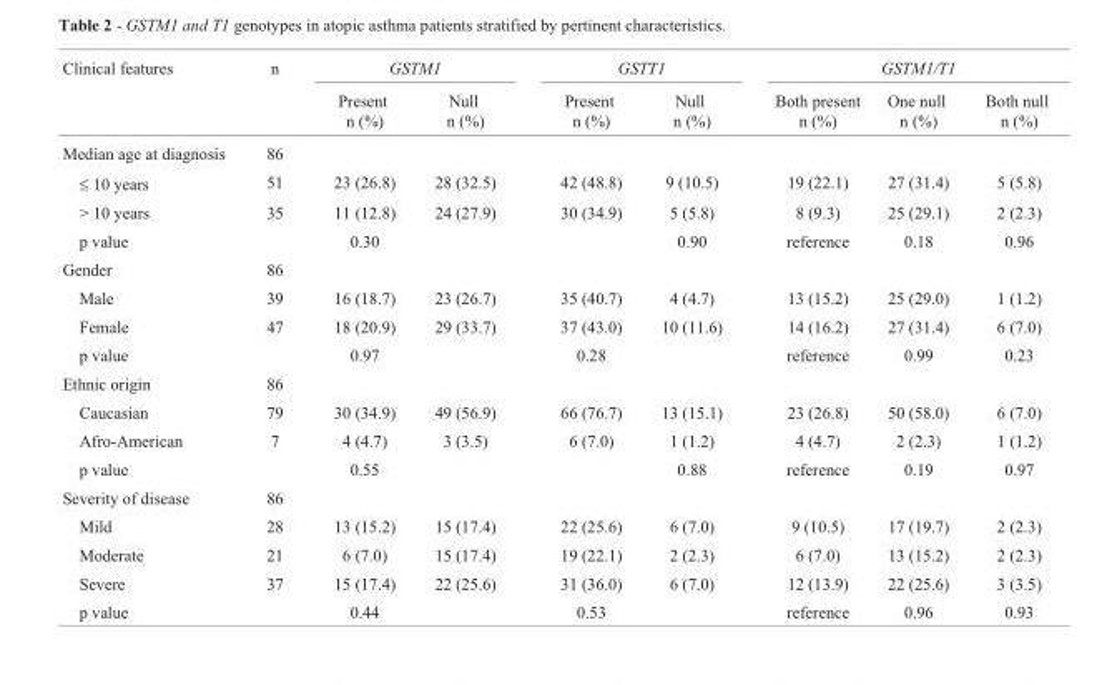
<table><thead><tr><td rowspan="2">Clinical features</td><td rowspan="2">n</td><td colspan="2">GSTM1</td><td colspan="2">GSTT1</td><td colspan="3">GSTM1/T1</td></tr><tr><td>Present n (%)</td><td>Null n (%)</td><td>Present n (%)</td><td>Null n (%)</td><td>Both present n (%)</td><td>One null n (%)</td><td>Both null n (%)</td></tr></thead><tbody><tr><td>Median age at diagnosis</td><td>86</td><td></td><td></td><td></td><td></td><td></td><td></td><td></td></tr><tr><td>≤ 10 years</td><td>51</td><td>23 (26.8)</td><td>28 (32.5)</td><td>42 (48.8)</td><td>9 (10.5)</td><td>19 (22.1)</td><td>27 (31.4)</td><td>5 (5.8)</td></tr><tr><td>&gt; 10 years</td><td>35</td><td>11 (12.8)</td><td>24 (27.9)</td><td>30 (34.9)</td><td>5 (5.8)</td><td>8 (9.3)</td><td>25 (29.1)</td><td>2 (2.3)</td></tr><tr><td>p value</td><td></td><td>0.30</td><td></td><td></td><td>0.90</td><td>reference</td><td>0.18</td><td>0.96</td></tr><tr><td>Gender</td><td>86</td><td></td><td></td><td></td><td></td><td></td><td></td><td></td></tr><tr><td>Male</td><td>39</td><td>16 (18.7)</td><td>23 (26.7)</td><td>35 (40.7)</td><td>4 (4.7)</td><td>13 (15.2)</td><td>25 (29.0)</td><td>1 (1.2)</td></tr><tr><td>Female</td><td>47</td><td>18 (20.9)</td><td>29 (33.7)</td><td>37 (43.0)</td><td>10 (11.6)</td><td>14 (16.2)</td><td>27 (31.4)</td><td>6 (7.0)</td></tr><tr><td>p value</td><td></td><td>0.97</td><td></td><td>0.28</td><td></td><td>reference</td><td>0.99</td><td>0.23</td></tr><tr><td>Ethnic origin</td><td>86</td><td></td><td></td><td></td><td></td><td></td><td></td><td></td></tr><tr><td>Caucasian</td><td>79</td><td>30 (34.9)</td><td>49 (56.9)</td><td>66 (76.7)</td><td>13 (15.1)</td><td>23 (26.8)</td><td>50 (58.0)</td><td>6 (7.0)</td></tr><tr><td>Afro-American</td><td>7</td><td>4 (4.7)</td><td>3 (3.5)</td><td>6 (7.0)</td><td>1 (1.2)</td><td>4 (4.7)</td><td>2 (2.3)</td><td>1 (1.2)</td></tr><tr><td>p value</td><td></td><td>0.55</td><td></td><td></td><td>0.88</td><td>reference</td><td>0.19</td><td>0.97</td></tr><tr><td>Severity of disease</td><td>86</td><td></td><td></td><td></td><td></td><td></td><td></td><td></td></tr><tr><td>Mild</td><td>28</td><td>13 (15.2)</td><td>15 (17.4)</td><td>22 (25.6)</td><td>6 (7.0)</td><td>9 (10.5)</td><td>17 (19.7)</td><td>2 (2.3)</td></tr><tr><td>Moderate</td><td>21</td><td>6 (7.0)</td><td>15 (17.4)</td><td>19 (22.1)</td><td>2 (2.3)</td><td>6 (7.0)</td><td>13 (15.2)</td><td>2 (2.3)</td></tr><tr><td>Severe</td><td>37</td><td>15 (17.4)</td><td>22 (25.6)</td><td>31 (36.0)</td><td>6 (7.0)</td><td>12 (13.9)</td><td>22 (25.6)</td><td>3 (3.5)</td></tr><tr><td>p value</td><td></td><td>0.44</td><td></td><td>0.53</td><td></td><td>reference</td><td>0.96</td><td>0.93</td></tr></tbody></table>